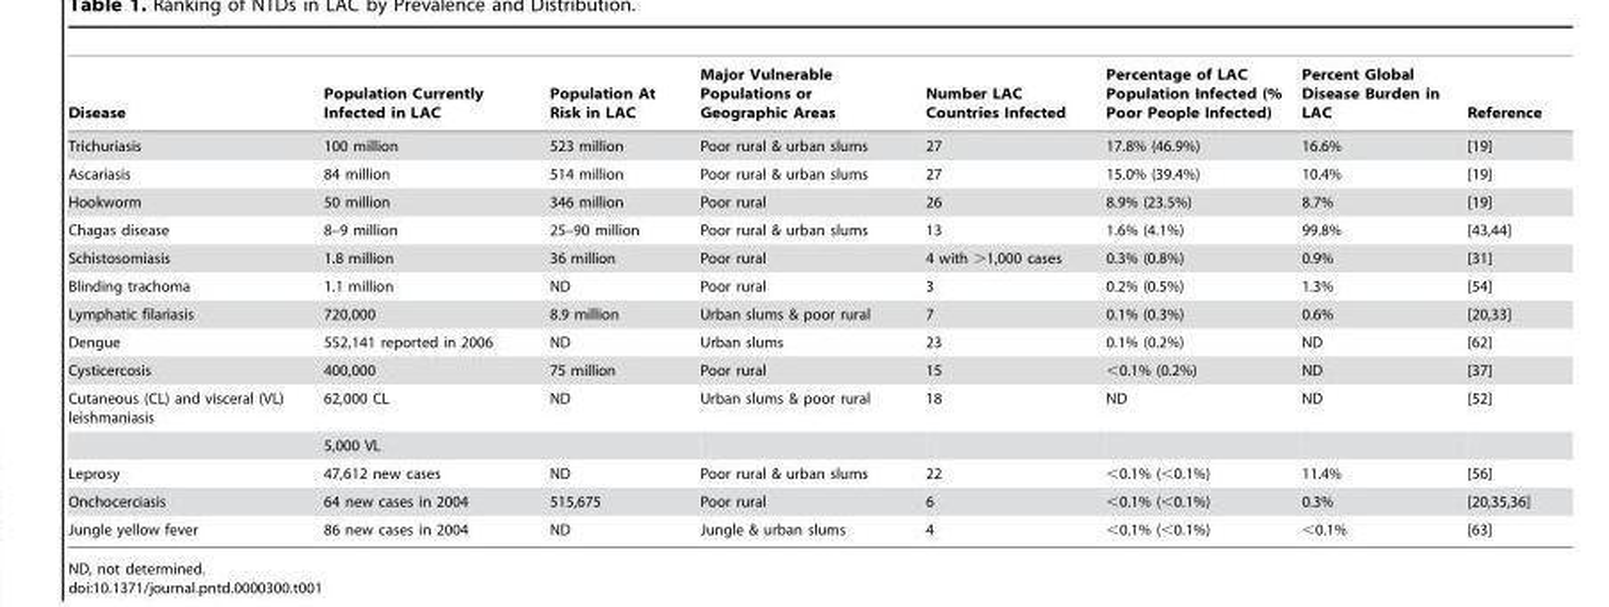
<table><thead><tr><td>Disease</td><td>Population Currently Infected in LAC</td><td>Population At Risk in LAC</td><td>Major Vulnerable Populations or Geographic Areas</td><td>Number LAC Countries Infected</td><td>Percentage of LAC Population Infected (% Poor People Infected)</td><td>Percent Global Disease Burden in LAC</td><td>Reference</td></tr></thead><tbody><tr><td>Trichuriasis</td><td>100 million</td><td>523 million</td><td>Poor rural &amp; urban slums</td><td>27</td><td>17.8% (46.9%)</td><td>16.6%</td><td>[19]</td></tr><tr><td>Ascariasis</td><td>84 million</td><td>514 million</td><td>Poor rural &amp; urban slums</td><td>27</td><td>15.0% (39.4%)</td><td>10.4%</td><td>[19]</td></tr><tr><td>Hookworm</td><td>50 million</td><td>346 million</td><td>Poor rural</td><td>26</td><td>8.9% (23.5%)</td><td>8.7%</td><td>[19]</td></tr><tr><td>Chagas disease</td><td>8–9 million</td><td>25–90 million</td><td>Poor rural &amp; urban slums</td><td>13</td><td>1.6% (4.1%)</td><td>99.8%</td><td>[43,44]</td></tr><tr><td>Schistosomiasis</td><td>1.8 million</td><td>36 million</td><td>Poor rural</td><td>4 with &gt;1,000 cases</td><td>0.3% (0.8%)</td><td>0.9%</td><td>[31]</td></tr><tr><td>Blinding trachoma</td><td>1.1 million</td><td>ND</td><td>Poor rural</td><td>3</td><td>0.2% (0.5%)</td><td>1.3%</td><td>[54]</td></tr><tr><td>Lymphatic filariasis</td><td>720,000</td><td>8.9 million</td><td>Urban slums &amp; poor rural</td><td>7</td><td>0.1% (0.3%)</td><td>0.6%</td><td>[20,33]</td></tr><tr><td>Dengue</td><td>552,141 reported in 2006</td><td>ND</td><td>Urban slums</td><td>23</td><td>0.1% (0.2%)</td><td>ND</td><td>[62]</td></tr><tr><td>Cysticercosis</td><td>400,000</td><td>75 million</td><td>Poor rural</td><td>15</td><td>&lt;0.1% (0.2%)</td><td>ND</td><td>[37]</td></tr><tr><td rowspan="2">Cutaneous (CL) and visceral (VL) leishmaniasis</td><td>62,000 CL</td><td>ND</td><td>Urban slums &amp; poor rural</td><td>18</td><td>ND</td><td>ND</td><td>[52]</td></tr><tr><td>5,000 VL</td><td></td><td></td><td></td><td></td><td></td><td></td></tr><tr><td>Leprosy</td><td>47,612 new cases</td><td>ND</td><td>Poor rural &amp; urban slums</td><td>22</td><td>&lt;0.1% (&lt;0.1%)</td><td>11.4%</td><td>[56]</td></tr><tr><td>Onchocerciasis</td><td>64 new cases in 2004</td><td>515,675</td><td>Poor rural</td><td>6</td><td>&lt;0.1% (&lt;0.1%)</td><td>0.3%</td><td>[20,35,36]</td></tr><tr><td>Jungle yellow fever</td><td>86 new cases in 2004</td><td>ND</td><td>Jungle &amp; urban slums</td><td>4</td><td>&lt;0.1% (&lt;0.1%)</td><td>&lt;0.1%</td><td>[63]</td></tr></tbody></table>